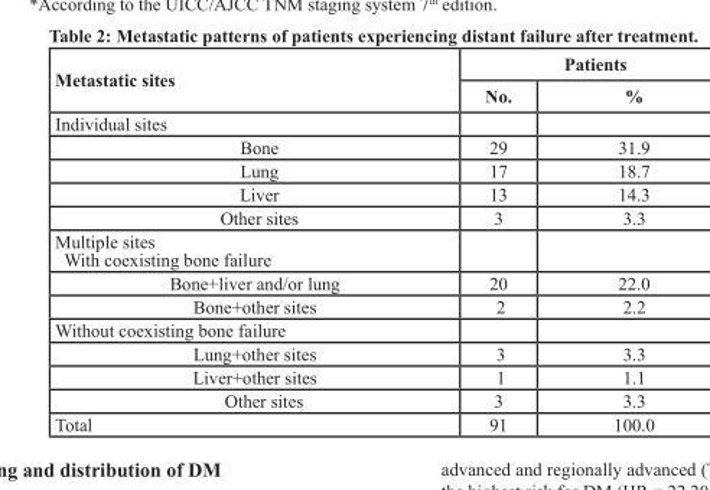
<table><thead><tr><td rowspan="2">Metastatic sites</td><td colspan="2">Patients</td></tr><tr><td>No.</td><td>%</td></tr></thead><tbody><tr><td colspan="3">Individual sites</td></tr><tr><td>Bone</td><td>29</td><td>31.9</td></tr><tr><td>Lung</td><td>17</td><td>18.7</td></tr><tr><td>Liver</td><td>13</td><td>14.3</td></tr><tr><td>Other sites</td><td>3</td><td>3.3</td></tr><tr><td colspan="3">Multiple sites With coexisting bone failure</td></tr><tr><td>Bone+liver and/or lung</td><td>20</td><td>22.0</td></tr><tr><td>Bone+other sites</td><td>2</td><td>2.2</td></tr><tr><td colspan="3">Without coexisting bone failure</td></tr><tr><td>Lung+other sites</td><td>3</td><td>3.3</td></tr><tr><td>Liver+other sites</td><td>1</td><td>1.1</td></tr><tr><td>Other sites</td><td>3</td><td>3.3</td></tr><tr><td>Total</td><td>91</td><td>100.0</td></tr></tbody></table>